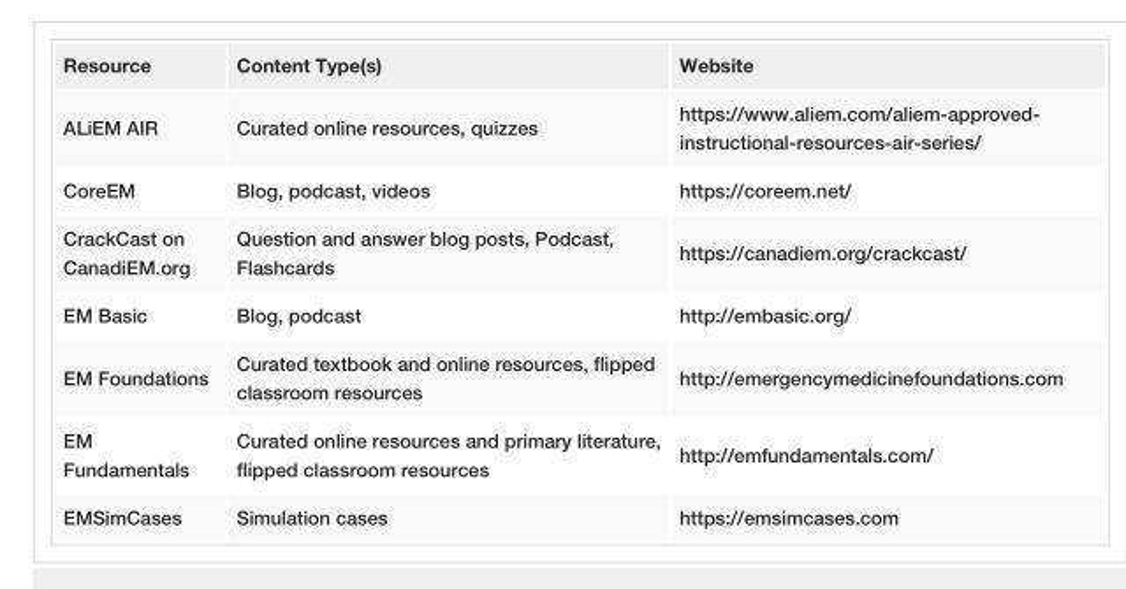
<table><tbody><tr><td>Resource</td><td>Content Type(s)</td><td>Website</td></tr><tr><td>ALiEM AIR</td><td>Curated online resources, quizzes</td><td>https://www.aliem.com/aliem-approved- instructional-resources-air-series/</td></tr><tr><td>CoreEM</td><td>Blog, podcast, videos</td><td>https://coreem.net/</td></tr><tr><td>CrackCast on CanadiEM.org</td><td>Question and answer blog posts, Podcast, Flashcards</td><td>https://canadiem.org/crackcast/</td></tr><tr><td>EM Basic</td><td>Blog, podcast</td><td>http://embasic.org/</td></tr><tr><td>EM Foundations</td><td>Curated textbook and online resources, flipped classroom resources</td><td>http://emergencymedicinefoundations.com</td></tr><tr><td>EM Fundamentals</td><td>Curated online resources and primary literature, flipped classroom resources</td><td>http://emfundamentals.com/</td></tr><tr><td>EMSimCases</td><td>Simulation cases</td><td>https://emsimcases.com</td></tr></tbody></table>